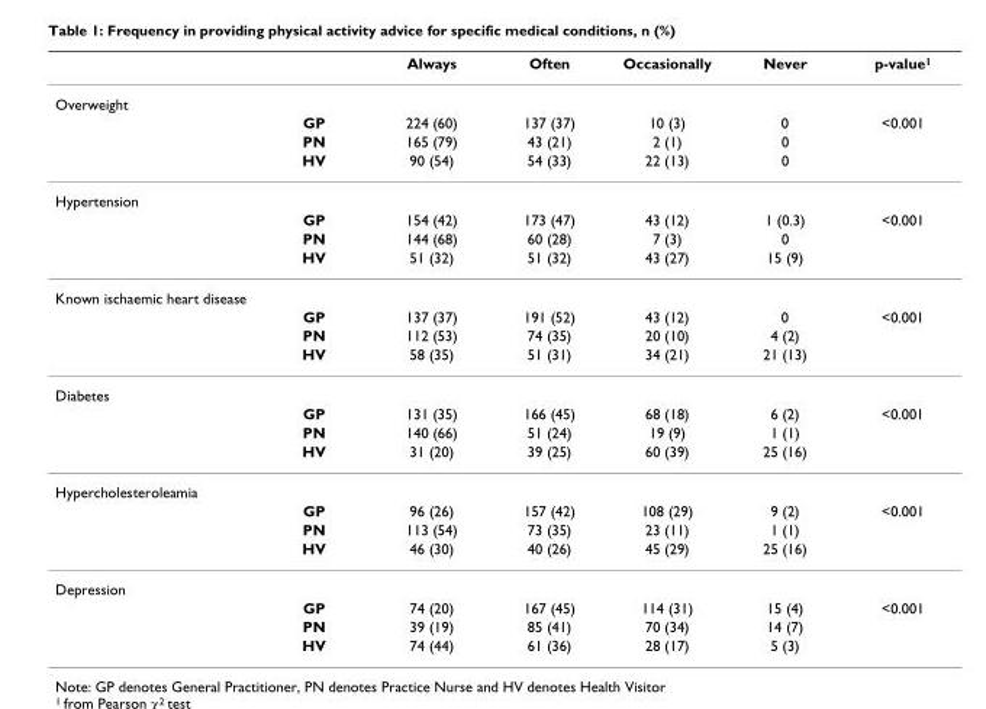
<table><thead><tr><td></td><td></td><td>Always</td><td>Often</td><td>Occasionally</td><td>Never</td><td>p-value1</td></tr></thead><tbody><tr><td colspan="7">Overweight</td></tr><tr><td></td><td>GP</td><td>224 (60)</td><td>137 (37)</td><td>10 (3)</td><td>0</td><td>&lt;0.001</td></tr><tr><td></td><td>PN</td><td>165 (79)</td><td>43 (21)</td><td>2 (1)</td><td>0</td><td></td></tr><tr><td></td><td>HV</td><td>90 (54)</td><td>54 (33)</td><td>22 (13)</td><td>0</td><td></td></tr><tr><td colspan="7">Hypertension</td></tr><tr><td></td><td>GP</td><td>154 (42)</td><td>173 (47)</td><td>43 (12)</td><td>1 (0.3)</td><td>&lt;0.001</td></tr><tr><td></td><td>PN</td><td>144 (68)</td><td>60 (28)</td><td>7 (3)</td><td>0</td><td></td></tr><tr><td></td><td>HV</td><td>51 (32)</td><td>51 (32)</td><td>43 (27)</td><td>15 (9)</td><td></td></tr><tr><td colspan="7">Known ischaemic heart disease</td></tr><tr><td></td><td>GP</td><td>137 (37)</td><td>191 (52)</td><td>43 (12)</td><td>0</td><td>&lt;0.001</td></tr><tr><td></td><td>PN</td><td>112 (53)</td><td>74 (35)</td><td>20 (10)</td><td>4 (2)</td><td></td></tr><tr><td></td><td>HV</td><td>58 (35)</td><td>51 (31)</td><td>34 (21)</td><td>21 (13)</td><td></td></tr><tr><td colspan="7">Diabetes</td></tr><tr><td></td><td>GP</td><td>131 (35)</td><td>166 (45)</td><td>68 (18)</td><td>6 (2)</td><td>&lt;0.001</td></tr><tr><td></td><td>PN</td><td>140 (66)</td><td>51 (24)</td><td>19 (9)</td><td>1 (1)</td><td></td></tr><tr><td></td><td>HV</td><td>31 (20)</td><td>39 (25)</td><td>60 (39)</td><td>25 (16)</td><td></td></tr><tr><td colspan="7">Hypercholesteroleamia</td></tr><tr><td></td><td>GP</td><td>96 (26)</td><td>157 (42)</td><td>108 (29)</td><td>9 (2)</td><td>&lt;0.001</td></tr><tr><td></td><td>PN</td><td>113 (54)</td><td>73 (35)</td><td>23 (11)</td><td>1 (1)</td><td></td></tr><tr><td></td><td>HV</td><td>46 (30)</td><td>40 (26)</td><td>45 (29)</td><td>25 (16)</td><td></td></tr><tr><td colspan="7">Depression</td></tr><tr><td></td><td>GP</td><td>74 (20)</td><td>167 (45)</td><td>114 (31)</td><td>15 (4)</td><td>&lt;0.001</td></tr><tr><td></td><td>PN</td><td>39 (19)</td><td>85 (41)</td><td>70 (34)</td><td>14 (7)</td><td></td></tr><tr><td></td><td>HV</td><td>74 (44)</td><td>61 (36)</td><td>28 (17)</td><td>5 (3)</td><td></td></tr></tbody></table>